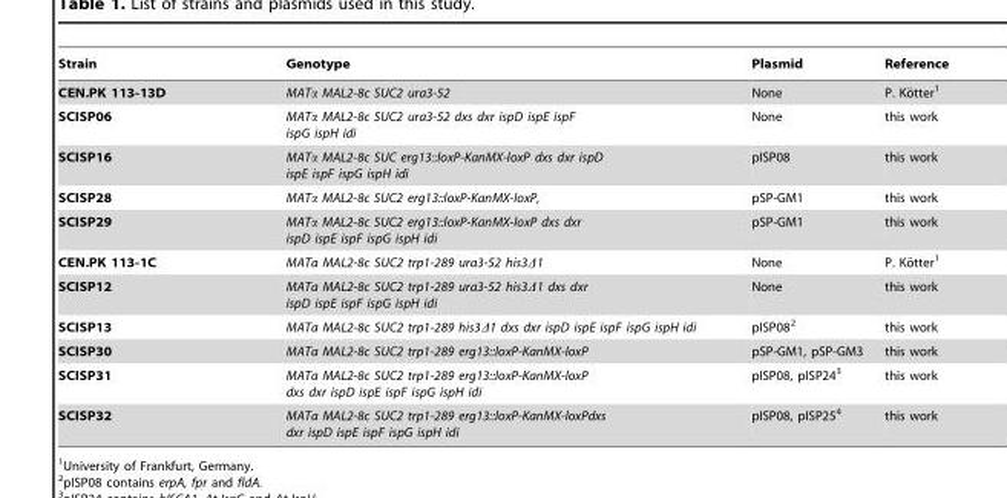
<table><thead><tr><td>Strain</td><td>Genotype</td><td>Plasmid</td><td>Reference</td></tr></thead><tbody><tr><td>CEN.PK 113-13D</td><td>MATα MAL2-8c SUC2 ura3-52</td><td>None</td><td>P. Ko¨tter1</td></tr><tr><td>SCISP06</td><td>MATα MAL2-8c SUC2 ura3-52 dxs dxr ispD ispE ispF ispG ispH idi</td><td>None</td><td>this work</td></tr><tr><td>SCISP16</td><td>MATα MAL2-8c SUC erg13::loxP-KanMX-loxP dxs dxr ispD ispE ispF ispG ispH idi</td><td>pISP08</td><td>this work</td></tr><tr><td>SCISP28</td><td>MATα MAL2-8c SUC2 erg13::loxP-KanMX-loxP,</td><td>pSP-GM1</td><td>this work</td></tr><tr><td>SCISP29</td><td>MATα MAL2-8c SUC2 erg13::loxP-KanMX-loxP dxs dxr ispD ispE ispF ispG ispH idi</td><td>pSP-GM1</td><td>this work</td></tr><tr><td>CEN.PK 113-1C</td><td>MATa MAL2-8c SUC2 trp1-289 ura3-52 his3Δ1</td><td>None</td><td>P. Ko¨tter1</td></tr><tr><td>SCISP12</td><td>MATa MAL2-8c SUC2 trp1-289 ura3-52 his3Δ1 dxs dxr ispD ispE ispF ispG ispH idi</td><td>None</td><td>this work</td></tr><tr><td>SCISP13</td><td>MATa MAL2-8c SUC2 trp1-289 his3Δ1 dxs dxr ispD ispE ispF ispG ispH idi</td><td>pISP08<sup>2</sup></td><td>this work</td></tr><tr><td>SCISP30</td><td>MATa MAL2-8c SUC2 trp1-289 erg13::loxP-KanMX-loxP</td><td>pSP-GM1, pSP-GM3</td><td>this work</td></tr><tr><td>SCISP31</td><td>MATa MAL2-8c SUC2 trp1-289 erg13::loxP-KanMX-loxP dxs dxr ispD ispE ispF ispG ispH idi</td><td>pISP08, pISP24<sup>3</sup></td><td>this work</td></tr><tr><td>SCISP32</td><td>MATa MAL2-8c SUC2 trp1-289 erg13::loxP-KanMX-loxPdxs dxr ispD ispE ispF ispG ispH idi</td><td>pISP08, pISP25<sup>4</sup></td><td>this work</td></tr></tbody></table>